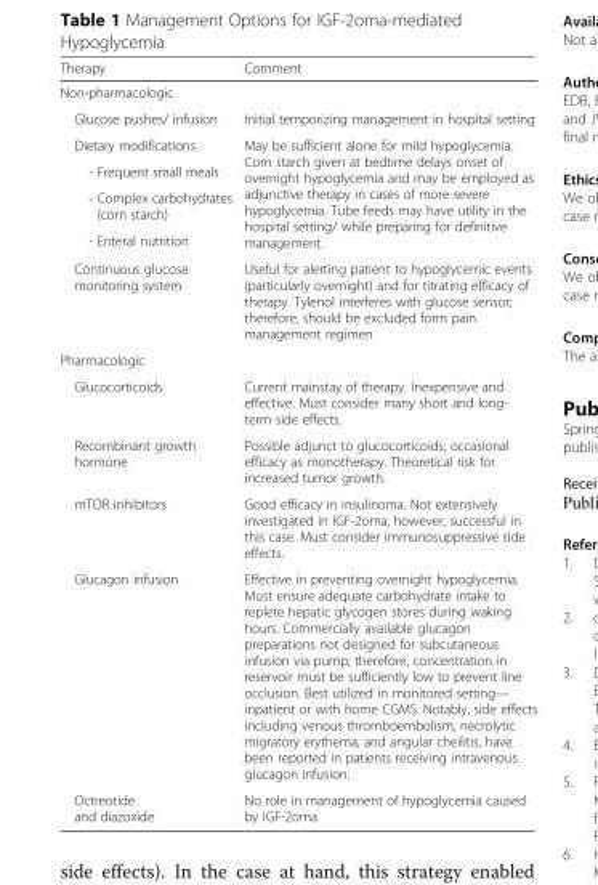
<table><thead><tr><td>Therapy</td><td>Comment</td></tr></thead><tbody><tr><td colspan="2">Non-pharmacologic</td></tr><tr><td>Glucose pushes/ infusion</td><td>Initial temporizing management in hospital setting</td></tr><tr><td>Dietary modifications</td><td rowspan="4">May be sufficient alone for mild hypoglycemia. Corn starch given at bedtime delays onset of overnight hypoglycemia and may be employed as adjunctive therapy in cases of more severe hypoglycemia. Tube feeds may have utility in the hospital setting/ while preparing for definitive management.</td></tr><tr><td>- Frequent small meals</td></tr><tr><td>- Complex carbohydrates (corn starch)</td></tr><tr><td>- Enteral nutrition</td></tr><tr><td>Continuous glucose monitoring system</td><td>Useful for alerting patient to hypoglycemic events (particularly overnight) and for titrating efficacy of therapy. Tylenol interferes with glucose sensor; therefore, should be excluded form pain management regimen</td></tr><tr><td colspan="2">Pharmacologic</td></tr><tr><td>Glucocorticoids</td><td>Current mainstay of therapy. Inexpensive and effective. Must consider many short and long- term side effects.</td></tr><tr><td>Recombinant growth hormone</td><td>Possible adjunct to glucocorticoids; occasional efficacy as monotherapy. Theoretical risk for increased tumor growth.</td></tr><tr><td>mTOR inhibitors</td><td>Good efficacy in insulinoma. Not extensively investigated in IGF-2oma, however, successful in this case. Must consider immunosuppressive side effects.</td></tr><tr><td>Glucagon infusion</td><td>Effective in preventing overnight hypoglycemia. Must ensure adequate carbohydrate intake to replete hepatic glycogen stores during waking hours. Commercially available glucagon preparations not designed for subcutaneous infusion via pump; therefore, concentration in reservoir must be sufficiently low to prevent line occlusion. Best utilized in monitored setting— inpatient or with home CGMS. Notably, side effects including venous thromboembolism, necrolytic migratory erythema, and angular cheilitis, have been reported in patients receiving intravenous glucagon infusion.</td></tr><tr><td>Octreotide and diazoxide</td><td>No role in management of hypoglycemia caused by IGF-2oma</td></tr></tbody></table>